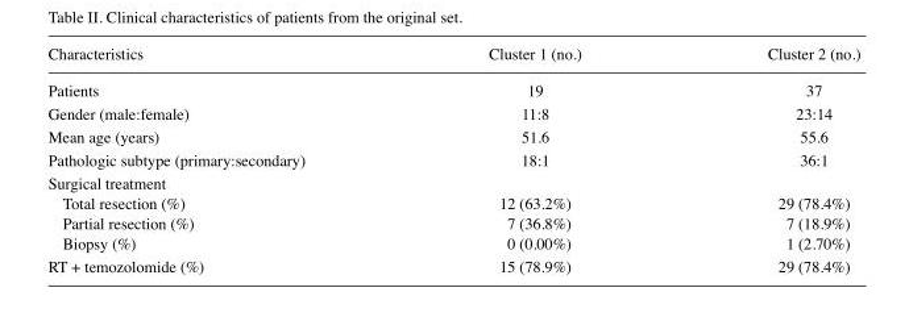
<table><thead><tr><td>Characteristics</td><td>Cluster 1 (no.)</td><td>Cluster 2 (no.)</td></tr></thead><tbody><tr><td>Patients</td><td>19</td><td>37</td></tr><tr><td>Gender (male:female)</td><td>11:8</td><td>23:14</td></tr><tr><td>Mean age (years)</td><td>51.6</td><td>55.6</td></tr><tr><td>Pathologic subtype (primary:secondary)</td><td>18:1</td><td>36:1</td></tr><tr><td colspan="3">Surgical treatment</td></tr><tr><td>Total resection (%)</td><td>12 (63.2%)</td><td>29 (78.4%)</td></tr><tr><td>Partial resection (%)</td><td>7 (36.8%)</td><td>7 (18.9%)</td></tr><tr><td>Biopsy (%)</td><td>0 (0.00%)</td><td>1 (2.70%)</td></tr><tr><td>RT + temozolomide (%)</td><td>15 (78.9%)</td><td>29 (78.4%)</td></tr></tbody></table>